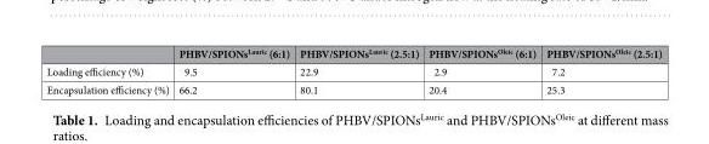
<table><thead><tr><td></td><td>PHBV/SPIONs<sup>Lauric</sup> (6:1)</td><td>PHBV/SPIONs<sup>Lauric</sup> (2.5:1)</td><td>PHBV/SPIONs<sup>Oleic</sup> (6:1)</td><td>PHBV/SPIONs<sup>Oleic</sup> (2.5:1)</td></tr></thead><tbody><tr><td>Loading efficiency (%)</td><td>9.5</td><td>22.9</td><td>2.9</td><td>7.2</td></tr><tr><td>Encapsulation efficiency (%)</td><td>66.2</td><td>80.1</td><td>20.4</td><td>25.3</td></tr></tbody></table>